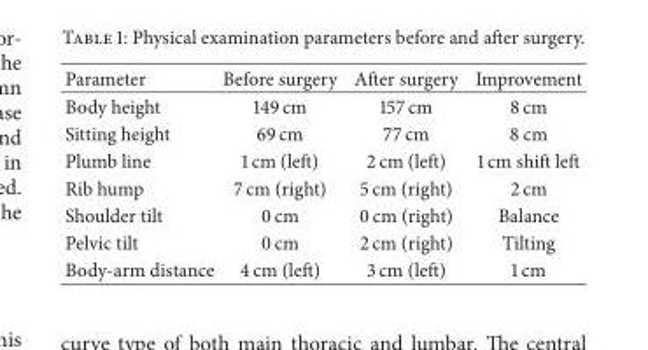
<table><thead><tr><td>Parameter</td><td>Before surgery</td><td>After surgery</td><td>Improvement</td></tr></thead><tbody><tr><td>Body height</td><td>149 cm</td><td>157 cm</td><td>8 cm</td></tr><tr><td>Sitting height</td><td>69 cm</td><td>77 cm</td><td>8 cm</td></tr><tr><td>Plumb line</td><td>1 cm (left)</td><td>2 cm (left)</td><td>1 cm shift left</td></tr><tr><td>Rib hump</td><td>7 cm (right)</td><td>5 cm (right)</td><td>2 cm</td></tr><tr><td>Shoulder tilt</td><td>0 cm</td><td>0 cm (right)</td><td>Balance</td></tr><tr><td>Pelvic tilt</td><td>0 cm</td><td>2 cm (right)</td><td>Tilting</td></tr><tr><td>Body-arm distance</td><td>4 cm (left)</td><td>3 cm (left)</td><td>1 cm</td></tr></tbody></table>